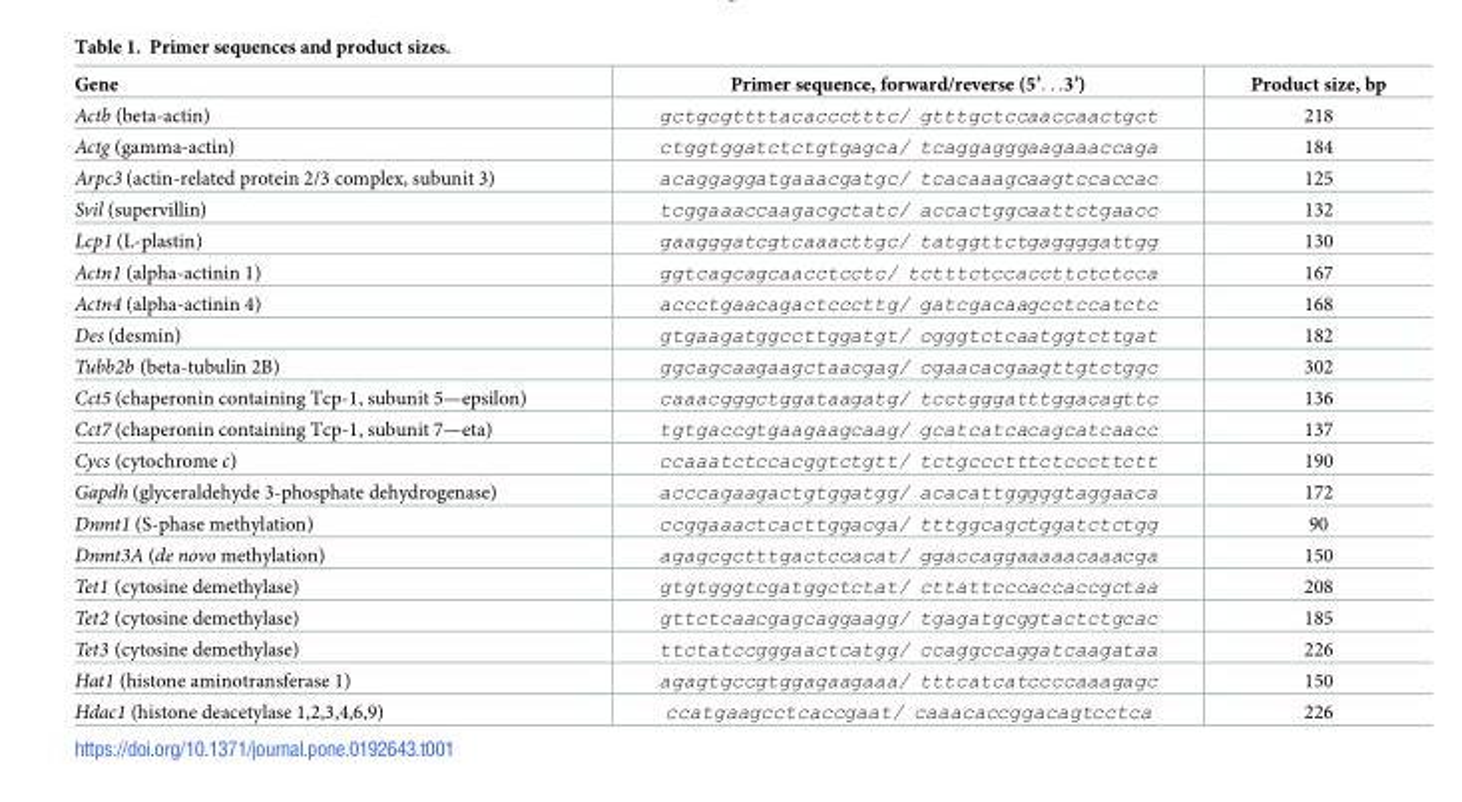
<table><thead><tr><td>Gene</td><td>Primer sequence, forward/reverse (5’. . .3’)</td><td>Product size, bp</td></tr></thead><tbody><tr><td>Actb (beta-actin)</td><td>gctgcgttttacaccctttc/ gtttgctccaaccaactgct</td><td>218</td></tr><tr><td>Actg (gamma-actin)</td><td>ctggtggatctctgtgagca/ tcaggagggaagaaaccaga</td><td>184</td></tr><tr><td>Arpc3 (actin-related protein 2/3 complex, subunit 3)</td><td>acaggaggatgaaacgatgc/ tcacaaagcaagtccaccac</td><td>125</td></tr><tr><td>Svil (supervillin)</td><td>tcggaaaccaagacgctatc/ accactggcaattctgaacc</td><td>132</td></tr><tr><td>Lcp1 (L-plastin)</td><td>gaagggatcgtcaaacttgc/ tatggttctgaggggattgg</td><td>130</td></tr><tr><td>Actn1 (alpha-actinin 1)</td><td>ggtcagcagcaacctcctc/ tctttctccaccttctctcca</td><td>167</td></tr><tr><td>Actn4 (alpha-actinin 4)</td><td>accctgaacagactcccttg/ gatcgacaagcctccatctc</td><td>168</td></tr><tr><td>Des (desmin)</td><td>gtgaagatggccttggatgt/ cgggtctcaatggtcttgat</td><td>182</td></tr><tr><td>Tubb2b (beta-tubulin 2B)</td><td>ggcagcaagaagctaacgag/ cgaacacgaagttgtctggc</td><td>302</td></tr><tr><td>Cct5 (chaperonin containing Tcp-1, subunit 5—epsilon)</td><td>caaacgggctggataagatg/ tcctgggatttggacagttc</td><td>136</td></tr><tr><td>Cct7 (chaperonin containing Tcp-1, subunit 7—eta)</td><td>tgtgaccgtgaagaagcaag/ gcatcatcacagcatcaacc</td><td>137</td></tr><tr><td>Cycs (cytochrome c)</td><td>ccaaatctccacggtctgtt/ tctgccctttctcccttctt</td><td>190</td></tr><tr><td>Gapdh (glyceraldehyde 3-phosphate dehydrogenase)</td><td>acccagaagactgtggatgg/ acacattgggggtaggaaca</td><td>172</td></tr><tr><td>Dnmt1 (S-phase methylation)</td><td>ccggaaactcacttggacga/ tttggcagctggatctctgg</td><td>90</td></tr><tr><td>Dnmt3A (de novo methylation)</td><td>agagcgctttgactccacat/ ggaccaggaaaaacaaacga</td><td>150</td></tr><tr><td>Tet1 (cytosine demethylase)</td><td>gtgtgggtcgatggctctat/ cttattcccaccaccgctaa</td><td>208</td></tr><tr><td>Tet2 (cytosine demethylase)</td><td>gttctcaacgagcaggaagg/ tgagatgcggtactctgcac</td><td>185</td></tr><tr><td>Tet3 (cytosine demethylase)</td><td>ttctatccgggaactcatgg/ ccaggccaggatcaagataa</td><td>226</td></tr><tr><td>Hat1 (histone aminotransferase 1)</td><td>agagtgccgtggagaagaaa/ tttcatcatccccaaagagc</td><td>150</td></tr><tr><td>Hdac1 (histone deacetylase 1,2,3,4,6,9)</td><td>ccatgaagcctcaccgaat/ caaacaccggacagtcctca</td><td>226</td></tr></tbody></table>